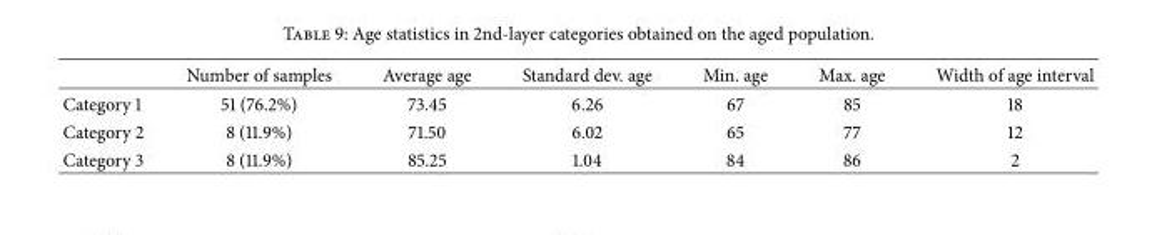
<table><thead><tr><td></td><td>Number of samples</td><td>Average age</td><td>Standard dev. age</td><td>Min. age</td><td>Max. age</td><td>Width of age interval</td></tr></thead><tbody><tr><td>Category 1</td><td>51 (76.2%)</td><td>73.45</td><td>6.26</td><td>67</td><td>85</td><td>18</td></tr><tr><td>Category 2</td><td>8 (11.9%)</td><td>71.50</td><td>6.02</td><td>65</td><td>77</td><td>12</td></tr><tr><td>Category 3</td><td>8 (11.9%)</td><td>85.25</td><td>1.04</td><td>84</td><td>86</td><td>2</td></tr></tbody></table>